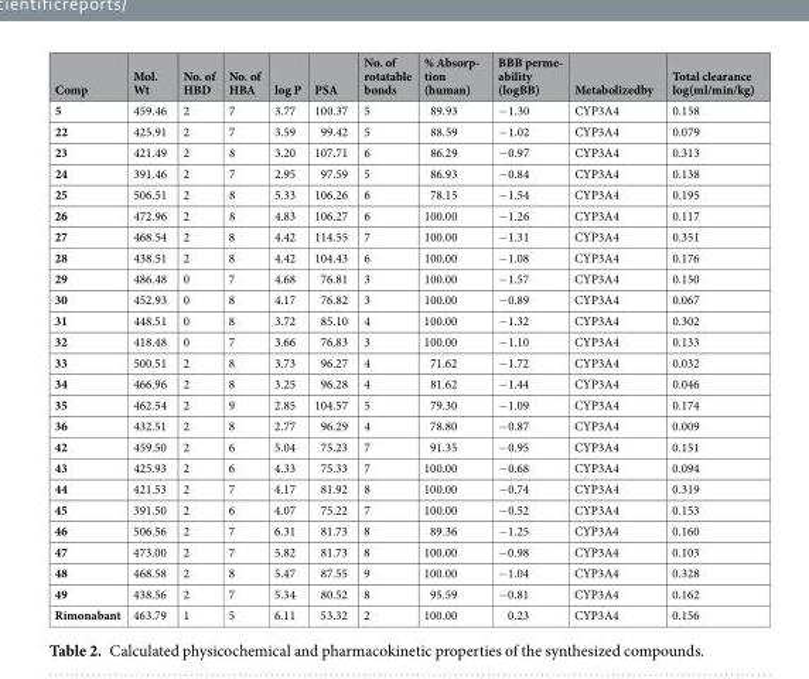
<table><thead><tr><td>Comp</td><td>Mol. Wt</td><td>No. of HBD</td><td>No. of HBA</td><td>log P</td><td>PSA</td><td>No. of rotatable bonds</td><td>% Absorp- tion (human)</td><td>BBB perme- ability (logBB)</td><td>Metabolizedby</td><td>Total clearance log(ml/min/kg)</td></tr></thead><tbody><tr><td>5</td><td>459.46</td><td>2</td><td>7</td><td>3.77</td><td>100.37</td><td>5</td><td>89.93</td><td>−1.30</td><td>CYP3A4</td><td>0.158</td></tr><tr><td>22</td><td>425.91</td><td>2</td><td>7</td><td>3.59</td><td>99.42</td><td>5</td><td>88.59</td><td>−1.02</td><td>CYP3A4</td><td>0.079</td></tr><tr><td>23</td><td>421.49</td><td>2</td><td>8</td><td>3.20</td><td>107.71</td><td>6</td><td>86.29</td><td>−0.97</td><td>CYP3A4</td><td>0.313</td></tr><tr><td>24</td><td>391.46</td><td>2</td><td>7</td><td>2.95</td><td>97.59</td><td>5</td><td>86.93</td><td>−0.84</td><td>CYP3A4</td><td>0.138</td></tr><tr><td>25</td><td>506.51</td><td>2</td><td>8</td><td>5.33</td><td>106.26</td><td>6</td><td>78.15</td><td>−1.54</td><td>CYP3A4</td><td>0.195</td></tr><tr><td>26</td><td>472.96</td><td>2</td><td>8</td><td>4.83</td><td>106.27</td><td>6</td><td>100.00</td><td>−1.26</td><td>CYP3A4</td><td>0.117</td></tr><tr><td>27</td><td>468.54</td><td>2</td><td>8</td><td>4.42</td><td>114.55</td><td>7</td><td>100.00</td><td>−1.31</td><td>CYP3A4</td><td>0.351</td></tr><tr><td>28</td><td>438.51</td><td>2</td><td>8</td><td>4.42</td><td>104.43</td><td>6</td><td>100.00</td><td>−1.08</td><td>CYP3A4</td><td>0.176</td></tr><tr><td>29</td><td>486.48</td><td>0</td><td>7</td><td>4.68</td><td>76.81</td><td>3</td><td>100.00</td><td>−1.57</td><td>CYP3A4</td><td>0.150</td></tr><tr><td>30</td><td>452.93</td><td>0</td><td>8</td><td>4.17</td><td>76.82</td><td>3</td><td>100.00</td><td>−0.89</td><td>CYP3A4</td><td>0.067</td></tr><tr><td>31</td><td>448.51</td><td>0</td><td>8</td><td>3.72</td><td>85.10</td><td>4</td><td>100.00</td><td>−1.32</td><td>CYP3A4</td><td>0.302</td></tr><tr><td>32</td><td>418.48</td><td>0</td><td>7</td><td>3.66</td><td>76.83</td><td>3</td><td>100.00</td><td>−1.10</td><td>CYP3A4</td><td>0.133</td></tr><tr><td>33</td><td>500.51</td><td>2</td><td>8</td><td>3.73</td><td>96.27</td><td>4</td><td>71.62</td><td>−1.72</td><td>CYP3A4</td><td>0.032</td></tr><tr><td>34</td><td>466.96</td><td>2</td><td>8</td><td>3.25</td><td>96.28</td><td>4</td><td>81.62</td><td>−1.44</td><td>CYP3A4</td><td>0.046</td></tr><tr><td>35</td><td>462.54</td><td>2</td><td>9</td><td>2.85</td><td>104.57</td><td>5</td><td>79.30</td><td>−1.09</td><td>CYP3A4</td><td>0.174</td></tr><tr><td>36</td><td>432.51</td><td>2</td><td>8</td><td>2.77</td><td>96.29</td><td>4</td><td>78.80</td><td>−0.87</td><td>CYP3A4</td><td>0.009</td></tr><tr><td>42</td><td>459.50</td><td>2</td><td>6</td><td>5.04</td><td>75.23</td><td>7</td><td>91.35</td><td>−0.95</td><td>CYP3A4</td><td>0.151</td></tr><tr><td>43</td><td>425.93</td><td>2</td><td>6</td><td>4.33</td><td>75.33</td><td>7</td><td>100.00</td><td>−0.68</td><td>CYP3A4</td><td>0.094</td></tr><tr><td>44</td><td>421.53</td><td>2</td><td>7</td><td>4.17</td><td>81.92</td><td>8</td><td>100.00</td><td>−0.74</td><td>CYP3A4</td><td>0.319</td></tr><tr><td>45</td><td>391.50</td><td>2</td><td>6</td><td>4.07</td><td>75.22</td><td>7</td><td>100.00</td><td>−0.52</td><td>CYP3A4</td><td>0.153</td></tr><tr><td>46</td><td>506.56</td><td>2</td><td>7</td><td>6.31</td><td>81.73</td><td>8</td><td>89.36</td><td>−1.25</td><td>CYP3A4</td><td>0.160</td></tr><tr><td>47</td><td>473.00</td><td>2</td><td>7</td><td>5.82</td><td>81.73</td><td>8</td><td>100.00</td><td>−0.98</td><td>CYP3A4</td><td>0.103</td></tr><tr><td>48</td><td>468.58</td><td>2</td><td>8</td><td>5.47</td><td>87.55</td><td>9</td><td>100.00</td><td>−1.04</td><td>CYP3A4</td><td>0.328</td></tr><tr><td>49</td><td>438.56</td><td>2</td><td>7</td><td>5.34</td><td>80.52</td><td>8</td><td>95.59</td><td>−0.81</td><td>CYP3A4</td><td>0.162</td></tr><tr><td>Rimonabant</td><td>463.79</td><td>1</td><td>5</td><td>6.11</td><td>53.32</td><td>2</td><td>100.00</td><td>0.23</td><td>CYP3A4</td><td>0.156</td></tr></tbody></table>